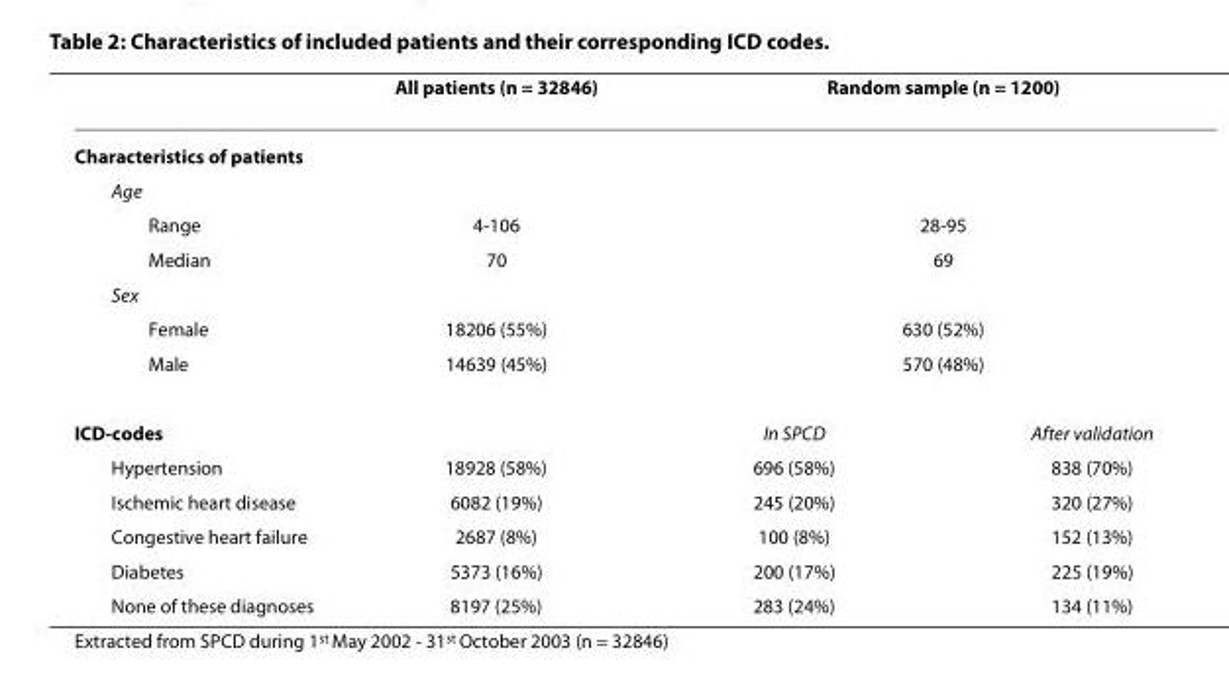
<table><thead><tr><td rowspan="2">Characteristics of patients</td><td rowspan="2">All patients (n = 32846)</td><td colspan="2">Random sample (n = 1200)</td></tr><tr><td></td><td></td></tr></thead><tbody><tr><td colspan="4">Age</td></tr><tr><td>Range</td><td>4-106</td><td colspan="2">28-95</td></tr><tr><td>Median</td><td>70</td><td colspan="2">69</td></tr><tr><td colspan="4">Sex</td></tr><tr><td>Female</td><td>18206 (55%)</td><td colspan="2">630 (52%)</td></tr><tr><td>Male</td><td>14639 (45%)</td><td colspan="2">570 (48%)</td></tr><tr><td>ICD-codes</td><td></td><td>In SPCD</td><td>After validation</td></tr><tr><td>Hypertension</td><td>18928 (58%)</td><td>696 (58%)</td><td>838 (70%)</td></tr><tr><td>Ischemic heart disease</td><td>6082 (19%)</td><td>245 (20%)</td><td>320 (27%)</td></tr><tr><td>Congestive heart failure</td><td>2687 (8%)</td><td>100 (8%)</td><td>152 (13%)</td></tr><tr><td>Diabetes</td><td>5373 (16%)</td><td>200 (17%)</td><td>225 (19%)</td></tr><tr><td>None of these diagnoses</td><td>8197 (25%)</td><td>283 (24%)</td><td>134 (11%)</td></tr></tbody></table>